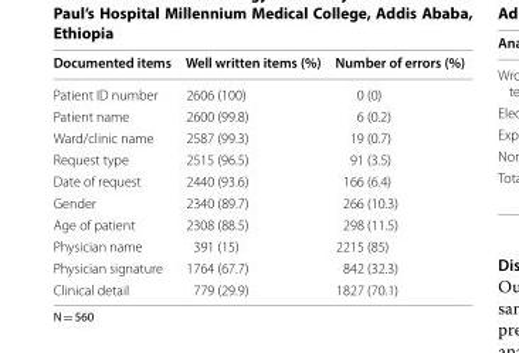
<table><thead><tr><td>Documented items</td><td>Well written items (%)</td><td>Number of errors (%)</td></tr></thead><tbody><tr><td>Patient ID number</td><td>2606 (100)</td><td>0 (0)</td></tr><tr><td>Patient name</td><td>2600 (99.8)</td><td>6 (0.2)</td></tr><tr><td>Ward/clinic name</td><td>2587 (99.3)</td><td>19 (0.7)</td></tr><tr><td>Request type</td><td>2515 (96.5)</td><td>91 (3.5)</td></tr><tr><td>Date of request</td><td>2440 (93.6)</td><td>166 (6.4)</td></tr><tr><td>Gender</td><td>2340 (89.7)</td><td>266 (10.3)</td></tr><tr><td>Age of patient</td><td>2308 (88.5)</td><td>298 (11.5)</td></tr><tr><td>Physician name</td><td>391 (15)</td><td>2215 (85)</td></tr><tr><td>Physician signature</td><td>1764 (67.7)</td><td>842 (32.3)</td></tr><tr><td>Clinical detail</td><td>779 (29.9)</td><td>1827 (70.1)</td></tr></tbody></table>